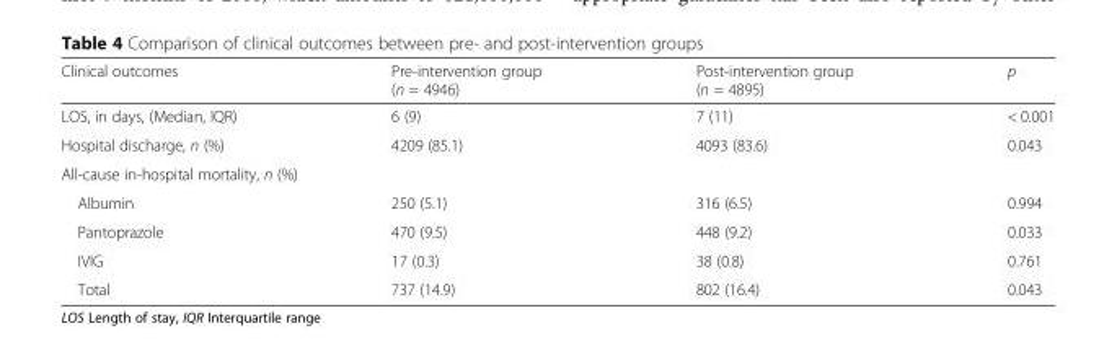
<table><thead><tr><td>Clinical outcomes</td><td>Pre-intervention group (n = 4946)</td><td>Post-intervention group (n = 4895)</td><td>p</td></tr></thead><tbody><tr><td>LOS, in days, (Median, IQR)</td><td>6 (9)</td><td>7 (11)</td><td>&lt; 0.001</td></tr><tr><td>Hospital discharge, n (%)</td><td>4209 (85.1)</td><td>4093 (83.6)</td><td>0.043</td></tr><tr><td colspan="4">All-cause in-hospital mortality, n (%)</td></tr><tr><td>Albumin</td><td>250 (5.1)</td><td>316 (6.5)</td><td>0.994</td></tr><tr><td>Pantoprazole</td><td>470 (9.5)</td><td>448 (9.2)</td><td>0.033</td></tr><tr><td>IVIG</td><td>17 (0.3)</td><td>38 (0.8)</td><td>0.761</td></tr><tr><td>Total</td><td>737 (14.9)</td><td>802 (16.4)</td><td>0.043</td></tr></tbody></table>